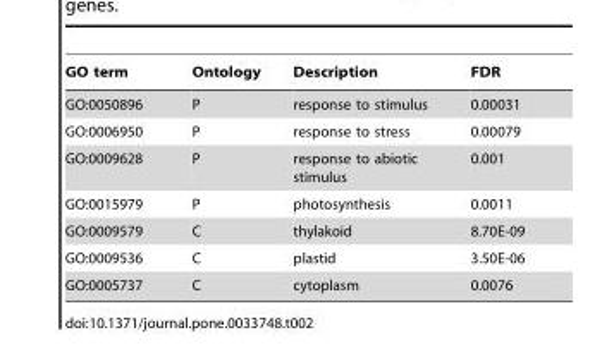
<table><thead><tr><td>GO term</td><td>Ontology</td><td>Description</td><td>FDR</td></tr></thead><tbody><tr><td>GO:0050896</td><td>P</td><td>response to stimulus</td><td>0.00031</td></tr><tr><td>GO:0006950</td><td>P</td><td>response to stress</td><td>0.00079</td></tr><tr><td>GO:0009628</td><td>P</td><td>response to abiotic stimulus</td><td>0.001</td></tr><tr><td>GO:0015979</td><td>P</td><td>photosynthesis</td><td>0.0011</td></tr><tr><td>GO:0009579</td><td>C</td><td>thylakoid</td><td>8.70E-09</td></tr><tr><td>GO:0009536</td><td>C</td><td>plastid</td><td>3.50E-06</td></tr><tr><td>GO:0005737</td><td>C</td><td>cytoplasm</td><td>0.0076</td></tr></tbody></table>